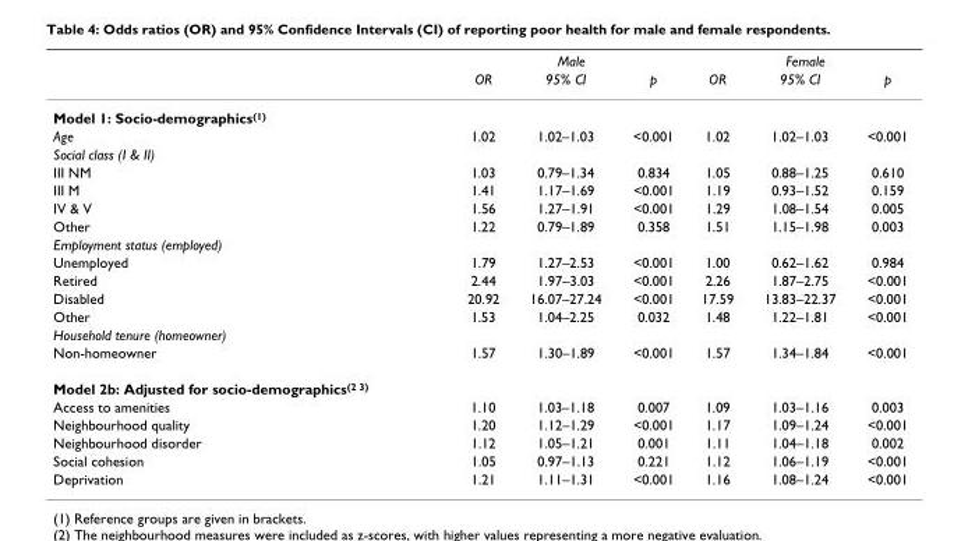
<table><thead><tr><td rowspan="2"></td><td colspan="3">Male</td><td colspan="3">Female</td></tr><tr><td>OR</td><td>95% CI</td><td>p</td><td>OR</td><td>95% CI</td><td>p</td></tr></thead><tbody><tr><td colspan="7">Model 1: Socio-demographics<sup>(1)</sup></td></tr><tr><td>Age</td><td>1.02</td><td>1.02–1.03</td><td>&lt;0.001</td><td>1.02</td><td>1.02–1.03</td><td>&lt;0.001</td></tr><tr><td colspan="7">Social class (I &amp; II)</td></tr><tr><td>III NM</td><td>1.03</td><td>0.79–1.34</td><td>0.834</td><td>1.05</td><td>0.88–1.25</td><td>0.610</td></tr><tr><td>III M</td><td>1.41</td><td>1.17–1.69</td><td>&lt;0.001</td><td>1.19</td><td>0.93–1.52</td><td>0.159</td></tr><tr><td>IV &amp; V</td><td>1.56</td><td>1.27–1.91</td><td>&lt;0.001</td><td>1.29</td><td>1.08–1.54</td><td>0.005</td></tr><tr><td>Other</td><td>1.22</td><td>0.79–1.89</td><td>0.358</td><td>1.51</td><td>1.15–1.98</td><td>0.003</td></tr><tr><td colspan="7">Employment status (employed)</td></tr><tr><td>Unemployed</td><td>1.79</td><td>1.27–2.53</td><td>&lt;0.001</td><td>1.00</td><td>0.62–1.62</td><td>0.984</td></tr><tr><td>Retired</td><td>2.44</td><td>1.97–3.03</td><td>&lt;0.001</td><td>2.26</td><td>1.87–2.75</td><td>&lt;0.001</td></tr><tr><td>Disabled</td><td>20.92</td><td>16.07–27.24</td><td>&lt;0.001</td><td>17.59</td><td>13.83–22.37</td><td>&lt;0.001</td></tr><tr><td>Other</td><td>1.53</td><td>1.04–2.25</td><td>0.032</td><td>1.48</td><td>1.22–1.81</td><td>&lt;0.001</td></tr><tr><td colspan="7">Household tenure (homeowner)</td></tr><tr><td>Non-homeowner</td><td>1.57</td><td>1.30–1.89</td><td>&lt;0.001</td><td>1.57</td><td>1.34–1.84</td><td>&lt;0.001</td></tr><tr><td colspan="7">Model 2b: Adjusted for socio-demographics<sup>(2 3)</sup></td></tr><tr><td>Access to amenities</td><td>1.10</td><td>1.03–1.18</td><td>0.007</td><td>1.09</td><td>1.03–1.16</td><td>0.003</td></tr><tr><td>Neighbourhood quality</td><td>1.20</td><td>1.12–1.29</td><td>&lt;0.001</td><td>1.17</td><td>1.09–1.24</td><td>&lt;0.001</td></tr><tr><td>Neighbourhood disorder</td><td>1.12</td><td>1.05–1.21</td><td>0.001</td><td>1.11</td><td>1.04–1.18</td><td>0.002</td></tr><tr><td>Social cohesion</td><td>1.05</td><td>0.97–1.13</td><td>0.221</td><td>1.12</td><td>1.06–1.19</td><td>&lt;0.001</td></tr><tr><td>Deprivation</td><td>1.21</td><td>1.11–1.31</td><td>&lt;0.001</td><td>1.16</td><td>1.08–1.24</td><td>&lt;0.001</td></tr></tbody></table>